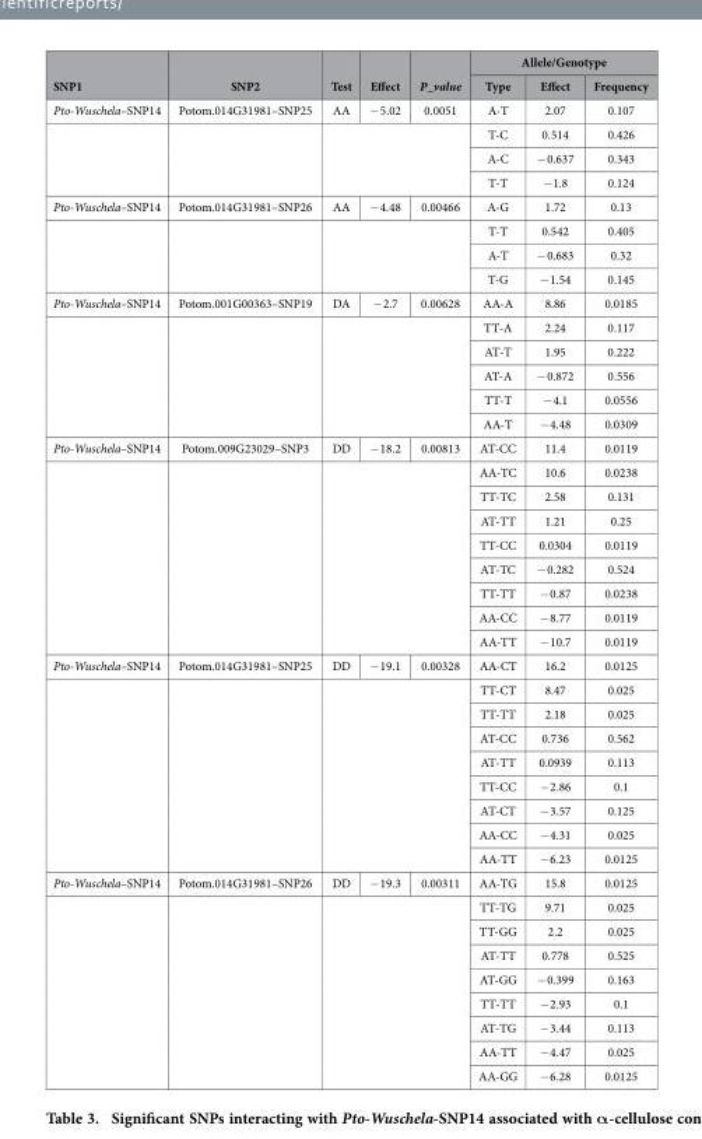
<table><thead><tr><td rowspan="2">SNP1</td><td rowspan="2">SNP2</td><td rowspan="2">Test</td><td rowspan="2">Effect</td><td rowspan="2">P_value</td><td colspan="3">Allele/Genotype</td></tr><tr><td>Type</td><td>Effect</td><td>Frequency</td></tr></thead><tbody><tr><td rowspan="4">Pto-Wuschela–SNP14</td><td>Potom.014G31981–SNP25</td><td>AA</td><td>− 5.02</td><td>0.0051</td><td>A-T</td><td>2.07</td><td>0.107</td></tr><tr><td rowspan="3"></td><td colspan="3"></td><td>T-C</td><td>0.514</td><td>0.426</td></tr><tr><td colspan="3"></td><td>A-C</td><td>− 0.637</td><td>0.343</td></tr><tr><td colspan="3"></td><td>T-T</td><td>− 1.8</td><td>0.124</td></tr><tr><td rowspan="4">Pto-Wuschela–SNP14</td><td>Potom.014G31981–SNP26</td><td>AA</td><td>− 4.48</td><td>0.00466</td><td>A-G</td><td>1.72</td><td>0.13</td></tr><tr><td rowspan="3"></td><td colspan="3"></td><td>T-T</td><td>0.542</td><td>0.405</td></tr><tr><td colspan="3"></td><td>A-T</td><td>− 0.683</td><td>0.32</td></tr><tr><td colspan="3"></td><td>T-G</td><td>− 1.54</td><td>0.145</td></tr><tr><td rowspan="6">Pto-Wuschela–SNP14</td><td>Potom.001G00363–SNP19</td><td>DA</td><td>− 2.7</td><td>0.00628</td><td>AA-A</td><td>8.86</td><td>0.0185</td></tr><tr><td rowspan="5"></td><td colspan="3"></td><td>TT-A</td><td>2.24</td><td>0.117</td></tr><tr><td colspan="3"></td><td>AT-T</td><td>1.95</td><td>0.222</td></tr><tr><td colspan="3"></td><td>AT-A</td><td>− 0.872</td><td>0.556</td></tr><tr><td colspan="3"></td><td>TT-T</td><td>− 4.1</td><td>0.0556</td></tr><tr><td colspan="3"></td><td>AA-T</td><td>− 4.48</td><td>0.0309</td></tr><tr><td rowspan="9">Pto-Wuschela–SNP14</td><td>Potom.009G23029–SNP3</td><td>DD</td><td>− 18.2</td><td>0.00813</td><td>AT-CC</td><td>11.4</td><td>0.0119</td></tr><tr><td rowspan="8"></td><td colspan="3"></td><td>AA-TC</td><td>10.6</td><td>0.0238</td></tr><tr><td colspan="3"></td><td>TT-TC</td><td>2.58</td><td>0.131</td></tr><tr><td colspan="3"></td><td>AT-TT</td><td>1.21</td><td>0.25</td></tr><tr><td colspan="3"></td><td>TT-CC</td><td>0.0304</td><td>0.0119</td></tr><tr><td colspan="3"></td><td>AT-TC</td><td>− 0.282</td><td>0.524</td></tr><tr><td colspan="3"></td><td>TT-TT</td><td>− 0.87</td><td>0.0238</td></tr><tr><td colspan="3"></td><td>AA-CC</td><td>− 8.77</td><td>0.0119</td></tr><tr><td colspan="3"></td><td>AA-TT</td><td>− 10.7</td><td>0.0119</td></tr><tr><td rowspan="9">Pto-Wuschela–SNP14</td><td>Potom.014G31981–SNP25</td><td>DD</td><td>− 19.1</td><td>0.00328</td><td>AA-CT</td><td>16.2</td><td>0.0125</td></tr><tr><td rowspan="8"></td><td colspan="3"></td><td>TT-CT</td><td>8.47</td><td>0.025</td></tr><tr><td colspan="3"></td><td>TT-TT</td><td>2.18</td><td>0.025</td></tr><tr><td colspan="3"></td><td>AT-CC</td><td>0.736</td><td>0.562</td></tr><tr><td colspan="3"></td><td>AT-TT</td><td>0.0939</td><td>0.113</td></tr><tr><td colspan="3"></td><td>TT-CC</td><td>− 2.86</td><td>0.1</td></tr><tr><td colspan="3"></td><td>AT-CT</td><td>− 3.57</td><td>0.125</td></tr><tr><td colspan="3"></td><td>AA-CC</td><td>− 4.31</td><td>0.025</td></tr><tr><td colspan="3"></td><td>AA-TT</td><td>− 6.23</td><td>0.0125</td></tr><tr><td rowspan="9">Pto-Wuschela–SNP14</td><td>Potom.014G31981–SNP26</td><td>DD</td><td>− 19.3</td><td>0.00311</td><td>AA-TG</td><td>15.8</td><td>0.0125</td></tr><tr><td rowspan="8"></td><td colspan="3"></td><td>TT-TG</td><td>9.71</td><td>0.025</td></tr><tr><td colspan="3"></td><td>TT-GG</td><td>2.2</td><td>0.025</td></tr><tr><td colspan="3"></td><td>AT-TT</td><td>0.778</td><td>0.525</td></tr><tr><td colspan="3"></td><td>AT-GG</td><td>− 0.399</td><td>0.163</td></tr><tr><td colspan="3"></td><td>TT-TT</td><td>− 2.93</td><td>0.1</td></tr><tr><td colspan="3"></td><td>AT-TG</td><td>− 3.44</td><td>0.113</td></tr><tr><td colspan="3"></td><td>AA-TT</td><td>− 4.47</td><td>0.025</td></tr><tr><td colspan="3"></td><td>AA-GG</td><td>− 6.28</td><td>0.0125</td></tr></tbody></table>